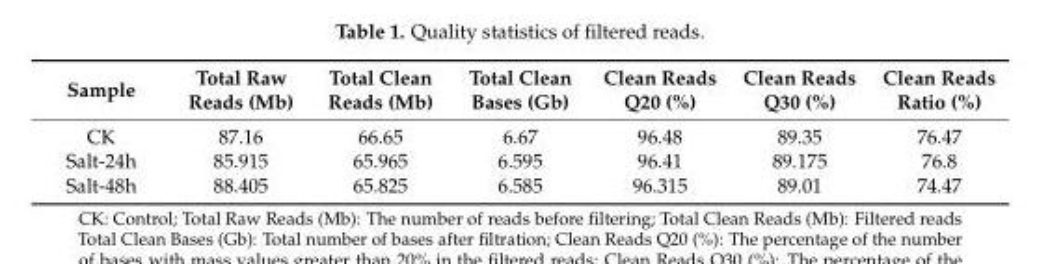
<table><thead><tr><td>Sample</td><td>Total Raw Reads (Mb)</td><td>Total Clean Reads (Mb)</td><td>Total Clean Bases (Gb)</td><td>Clean Reads Q20 (%)</td><td>Clean Reads Q30 (%)</td><td>Clean Reads Ratio (%)</td></tr></thead><tbody><tr><td>CK</td><td>87.16</td><td>66.65</td><td>6.67</td><td>96.48</td><td>89.35</td><td>76.47</td></tr><tr><td>Salt-24h</td><td>85.915</td><td>65.965</td><td>6.595</td><td>96.41</td><td>89.175</td><td>76.8</td></tr><tr><td>Salt-48h</td><td>88.405</td><td>65.825</td><td>6.585</td><td>96.315</td><td>89.01</td><td>74.47</td></tr></tbody></table>